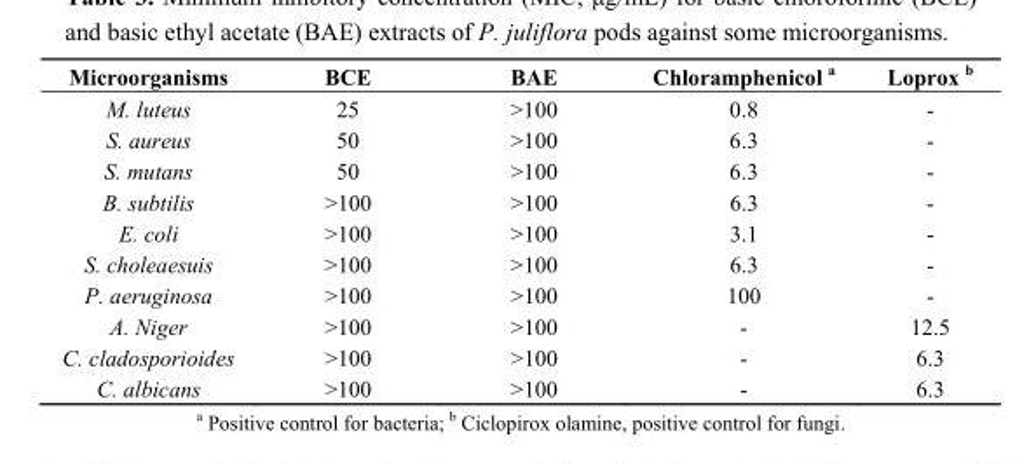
<table><thead><tr><td>Microorganisms</td><td>BCE</td><td>BAE</td><td>Chloramphenicol a</td><td>Loprox b</td></tr></thead><tbody><tr><td>M. luteus</td><td>25</td><td>&gt;100</td><td>0.8</td><td>-</td></tr><tr><td>S. aureus</td><td>50</td><td>&gt;100</td><td>6.3</td><td>-</td></tr><tr><td>S. mutans</td><td>50</td><td>&gt;100</td><td>6.3</td><td>-</td></tr><tr><td>B. subtilis</td><td>&gt;100</td><td>&gt;100</td><td>6.3</td><td>-</td></tr><tr><td>E. coli</td><td>&gt;100</td><td>&gt;100</td><td>3.1</td><td>-</td></tr><tr><td>S. choleaesuis</td><td>&gt;100</td><td>&gt;100</td><td>6.3</td><td>-</td></tr><tr><td>P. aeruginosa</td><td>&gt;100</td><td>&gt;100</td><td>100</td><td>-</td></tr><tr><td>A. Niger</td><td>&gt;100</td><td>&gt;100</td><td>-</td><td>12.5</td></tr><tr><td>C. cladosporioides</td><td>&gt;100</td><td>&gt;100</td><td>-</td><td>6.3</td></tr><tr><td>C. albicans</td><td>&gt;100</td><td>&gt;100</td><td>-</td><td>6.3</td></tr></tbody></table>